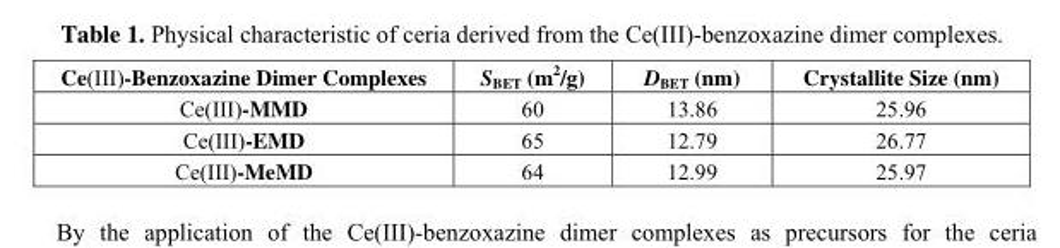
<table><thead><tr><td>Ce(III)-Benzoxazine Dimer Complexes</td><td>S<sub>BET</sub> (m<sup>2</sup>/g)</td><td>D<sub>BET</sub> (nm)</td><td>Crystallite Size (nm)</td></tr></thead><tbody><tr><td>Ce(III)-MMD</td><td>60</td><td>13.86</td><td>25.96</td></tr><tr><td>Ce(III)-EMD</td><td>65</td><td>12.79</td><td>26.77</td></tr><tr><td>Ce(III)-MeMD</td><td>64</td><td>12.99</td><td>25.97</td></tr></tbody></table>